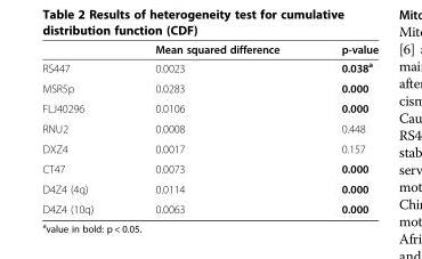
<table><thead><tr><td></td><td>Mean squared difference</td><td>p-value</td></tr></thead><tbody><tr><td>RS447</td><td>0.0023</td><td>0.038<sup>a</sup></td></tr><tr><td>MSR5p</td><td>0.0283</td><td>0.000</td></tr><tr><td>FLJ40296</td><td>0.0106</td><td>0.000</td></tr><tr><td>RNU2</td><td>0.0008</td><td>0.448</td></tr><tr><td>DXZ4</td><td>0.0017</td><td>0.157</td></tr><tr><td>CT47</td><td>0.0073</td><td>0.000</td></tr><tr><td>D4Z4 (4q)</td><td>0.0114</td><td>0.000</td></tr><tr><td>D4Z4 (10q)</td><td>0.0063</td><td>0.000</td></tr></tbody></table>